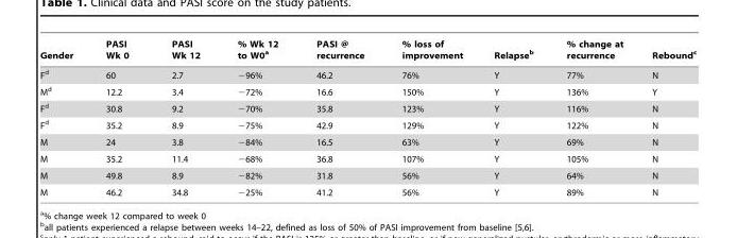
<table><thead><tr><td>Gender</td><td>PASI Wk 0</td><td>PASI Wk 12</td><td>% Wk 12 to W0<sup>a</sup></td><td>PASI @ recurrence</td><td>% loss of improvement</td><td>Relapse<sup>b</sup></td><td>% change at recurrence</td><td>Rebound<sup>c</sup></td></tr></thead><tbody><tr><td>F<sup>d</sup></td><td>60</td><td>2.7</td><td>−96%</td><td>46.2</td><td>76%</td><td>Y</td><td>77%</td><td>N</td></tr><tr><td>M<sup>d</sup></td><td>12.2</td><td>3.4</td><td>−72%</td><td>16.6</td><td>150%</td><td>Y</td><td>136%</td><td>Y</td></tr><tr><td>F<sup>d</sup></td><td>30.8</td><td>9.2</td><td>−70%</td><td>35.8</td><td>123%</td><td>Y</td><td>116%</td><td>N</td></tr><tr><td>F<sup>d</sup></td><td>35.2</td><td>8.9</td><td>−75%</td><td>42.9</td><td>129%</td><td>Y</td><td>122%</td><td>N</td></tr><tr><td>M</td><td>24</td><td>3.8</td><td>−84%</td><td>16.5</td><td>63%</td><td>Y</td><td>69%</td><td>N</td></tr><tr><td>M</td><td>35.2</td><td>11.4</td><td>−68%</td><td>36.8</td><td>107%</td><td>Y</td><td>105%</td><td>N</td></tr><tr><td>M</td><td>49.8</td><td>8.9</td><td>−82%</td><td>31.8</td><td>56%</td><td>Y</td><td>64%</td><td>N</td></tr><tr><td>M</td><td>46.2</td><td>34.8</td><td>−25%</td><td>41.2</td><td>56%</td><td>Y</td><td>89%</td><td>N</td></tr></tbody></table>